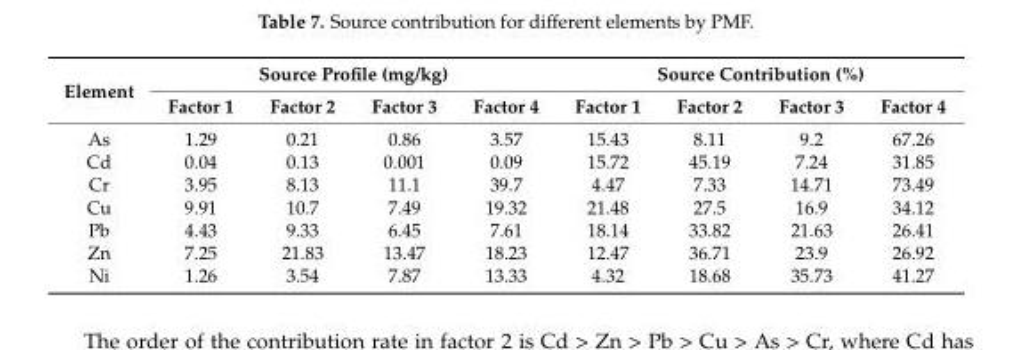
<table><thead><tr><td rowspan="2">Element</td><td colspan="4">Source Profile (mg/kg)</td><td colspan="4">Source Contribution (%)</td></tr><tr><td>Factor 1</td><td>Factor 2</td><td>Factor 3</td><td>Factor 4</td><td>Factor 1</td><td>Factor 2</td><td>Factor 3</td><td>Factor 4</td></tr></thead><tbody><tr><td>As</td><td>1.29</td><td>0.21</td><td>0.86</td><td>3.57</td><td>15.43</td><td>8.11</td><td>9.2</td><td>67.26</td></tr><tr><td>Cd</td><td>0.04</td><td>0.13</td><td>0.001</td><td>0.09</td><td>15.72</td><td>45.19</td><td>7.24</td><td>31.85</td></tr><tr><td>Cr</td><td>3.95</td><td>8.13</td><td>11.1</td><td>39.7</td><td>4.47</td><td>7.33</td><td>14.71</td><td>73.49</td></tr><tr><td>Cu</td><td>9.91</td><td>10.7</td><td>7.49</td><td>19.32</td><td>21.48</td><td>27.5</td><td>16.9</td><td>34.12</td></tr><tr><td>Pb</td><td>4.43</td><td>9.33</td><td>6.45</td><td>7.61</td><td>18.14</td><td>33.82</td><td>21.63</td><td>26.41</td></tr><tr><td>Zn</td><td>7.25</td><td>21.83</td><td>13.47</td><td>18.23</td><td>12.47</td><td>36.71</td><td>23.9</td><td>26.92</td></tr><tr><td>Ni</td><td>1.26</td><td>3.54</td><td>7.87</td><td>13.33</td><td>4.32</td><td>18.68</td><td>35.73</td><td>41.27</td></tr></tbody></table>